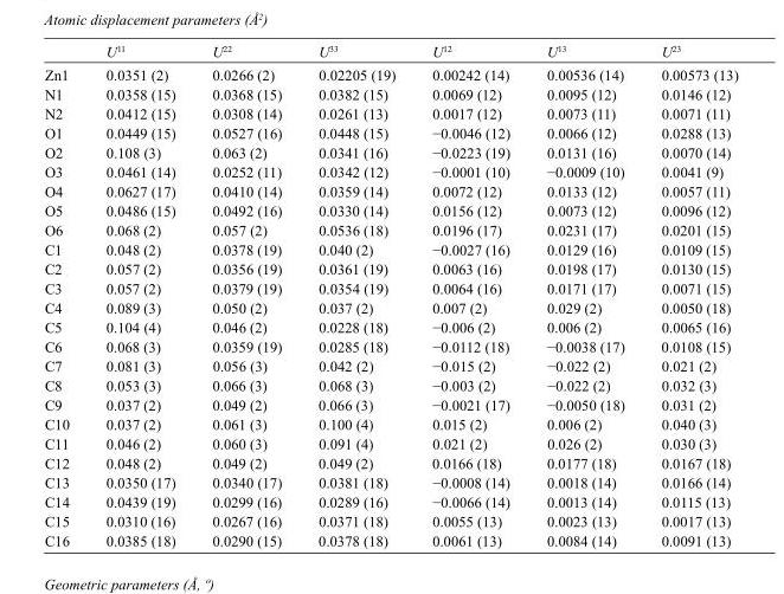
<table><thead><tr><td></td><td>U<sup>11</sup></td><td>U<sup>22</sup></td><td>U<sup>33</sup></td><td>U<sup>12</sup></td><td>U<sup>13</sup></td><td>U<sup>23</sup></td></tr></thead><tbody><tr><td>Zn1</td><td>0.0351 (2)</td><td>0.0266 (2)</td><td>0.02205 (19)</td><td>0.00242 (14)</td><td>0.00536 (14)</td><td>0.00573 (13)</td></tr><tr><td>N1</td><td>0.0358 (15)</td><td>0.0368 (15)</td><td>0.0382 (15)</td><td>0.0069 (12)</td><td>0.0095 (12)</td><td>0.0146 (12)</td></tr><tr><td>N2</td><td>0.0412 (15)</td><td>0.0308 (14)</td><td>0.0261 (13)</td><td>0.0017 (12)</td><td>0.0073 (11)</td><td>0.0071 (11)</td></tr><tr><td>O1</td><td>0.0449 (15)</td><td>0.0527 (16)</td><td>0.0448 (15)</td><td>−0.0046 (12)</td><td>0.0066 (12)</td><td>0.0288 (13)</td></tr><tr><td>O2</td><td>0.108 (3)</td><td>0.063 (2)</td><td>0.0341 (16)</td><td>−0.0223 (19)</td><td>0.0131 (16)</td><td>0.0070 (14)</td></tr><tr><td>O3</td><td>0.0461 (14)</td><td>0.0252 (11)</td><td>0.0342 (12)</td><td>−0.0001 (10)</td><td>−0.0009 (10)</td><td>0.0041 (9)</td></tr><tr><td>O4</td><td>0.0627 (17)</td><td>0.0410 (14)</td><td>0.0359 (14)</td><td>0.0072 (12)</td><td>0.0133 (12)</td><td>0.0057 (11)</td></tr><tr><td>O5</td><td>0.0486 (15)</td><td>0.0492 (16)</td><td>0.0330 (14)</td><td>0.0156 (12)</td><td>0.0073 (12)</td><td>0.0096 (12)</td></tr><tr><td>O6</td><td>0.068 (2)</td><td>0.057 (2)</td><td>0.0536 (18)</td><td>0.0196 (17)</td><td>0.0231 (17)</td><td>0.0201 (15)</td></tr><tr><td>C1</td><td>0.048 (2)</td><td>0.0378 (19)</td><td>0.040 (2)</td><td>−0.0027 (16)</td><td>0.0129 (16)</td><td>0.0109 (15)</td></tr><tr><td>C2</td><td>0.057 (2)</td><td>0.0356 (19)</td><td>0.0361 (19)</td><td>0.0063 (16)</td><td>0.0198 (17)</td><td>0.0130 (15)</td></tr><tr><td>C3</td><td>0.057 (2)</td><td>0.0379 (19)</td><td>0.0354 (19)</td><td>0.0064 (16)</td><td>0.0171 (17)</td><td>0.0071 (15)</td></tr><tr><td>C4</td><td>0.089 (3)</td><td>0.050 (2)</td><td>0.037 (2)</td><td>0.007 (2)</td><td>0.029 (2)</td><td>0.0050 (18)</td></tr><tr><td>C5</td><td>0.104 (4)</td><td>0.046 (2)</td><td>0.0228 (18)</td><td>−0.006 (2)</td><td>0.006 (2)</td><td>0.0065 (16)</td></tr><tr><td>C6</td><td>0.068 (3)</td><td>0.0359 (19)</td><td>0.0285 (18)</td><td>−0.0112 (18)</td><td>−0.0038 (17)</td><td>0.0108 (15)</td></tr><tr><td>C7</td><td>0.081 (3)</td><td>0.056 (3)</td><td>0.042 (2)</td><td>−0.015 (2)</td><td>−0.022 (2)</td><td>0.021 (2)</td></tr><tr><td>C8</td><td>0.053 (3)</td><td>0.066 (3)</td><td>0.068 (3)</td><td>−0.003 (2)</td><td>−0.022 (2)</td><td>0.032 (3)</td></tr><tr><td>C9</td><td>0.037 (2)</td><td>0.049 (2)</td><td>0.066 (3)</td><td>−0.0021 (17)</td><td>−0.0050 (18)</td><td>0.031 (2)</td></tr><tr><td>C10</td><td>0.037 (2)</td><td>0.061 (3)</td><td>0.100 (4)</td><td>0.015 (2)</td><td>0.006 (2)</td><td>0.040 (3)</td></tr><tr><td>C11</td><td>0.046 (2)</td><td>0.060 (3)</td><td>0.091 (4)</td><td>0.021 (2)</td><td>0.026 (2)</td><td>0.030 (3)</td></tr><tr><td>C12</td><td>0.048 (2)</td><td>0.049 (2)</td><td>0.049 (2)</td><td>0.0166 (18)</td><td>0.0177 (18)</td><td>0.0167 (18)</td></tr><tr><td>C13</td><td>0.0350 (17)</td><td>0.0340 (17)</td><td>0.0381 (18)</td><td>−0.0008 (14)</td><td>0.0018 (14)</td><td>0.0166 (14)</td></tr><tr><td>C14</td><td>0.0439 (19)</td><td>0.0299 (16)</td><td>0.0289 (16)</td><td>−0.0066 (14)</td><td>0.0013 (14)</td><td>0.0115 (13)</td></tr><tr><td>C15</td><td>0.0310 (16)</td><td>0.0267 (16)</td><td>0.0371 (18)</td><td>0.0055 (13)</td><td>0.0023 (13)</td><td>0.0017 (13)</td></tr><tr><td>C16</td><td>0.0385 (18)</td><td>0.0290 (15)</td><td>0.0378 (18)</td><td>0.0061 (13)</td><td>0.0084 (14)</td><td>0.0091 (13)</td></tr></tbody></table>